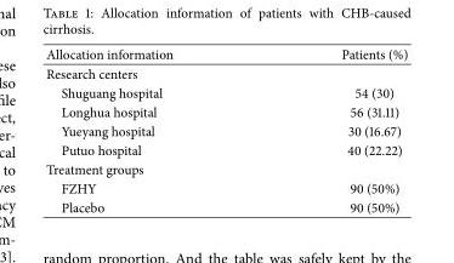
<table><thead><tr><td>Allocation information</td><td>Patients (%)</td></tr></thead><tbody><tr><td colspan="2">Research centers</td></tr><tr><td>Shuguang hospital</td><td>54 (30)</td></tr><tr><td>Longhua hospital</td><td>56 (31.11)</td></tr><tr><td>Yueyang hospital</td><td>30 (16.67)</td></tr><tr><td>Putuo hospital</td><td>40 (22.22)</td></tr><tr><td colspan="2">Treatment groups</td></tr><tr><td>FZHY</td><td>90 (50%)</td></tr><tr><td>Placebo</td><td>90 (50%)</td></tr></tbody></table>